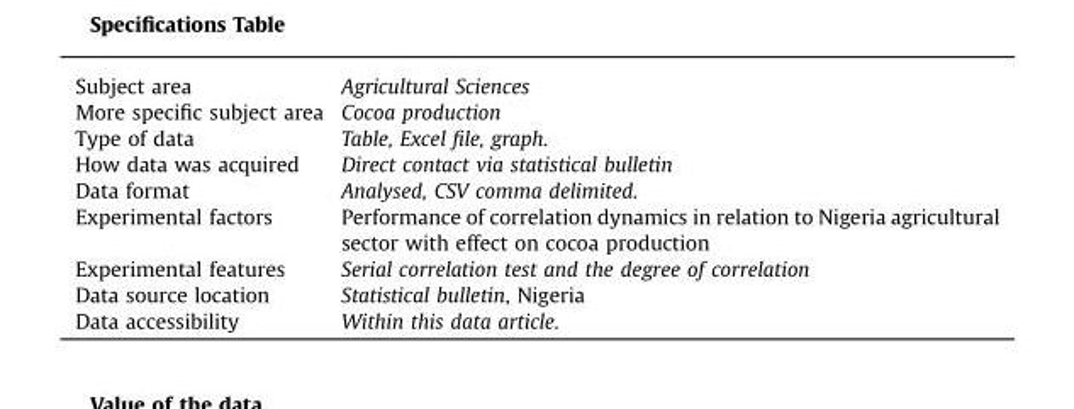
<table><tbody><tr><td>Subject area</td><td>Agricultural Sciences</td></tr><tr><td>More specific subject area</td><td>Cocoa production</td></tr><tr><td>Type of data</td><td>Table, Excel file, graph.</td></tr><tr><td>How data was acquired</td><td>Direct contact via statistical bulletin</td></tr><tr><td>Data format</td><td>Analysed, CSV comma delimited.</td></tr><tr><td>Experimental factors</td><td>Performance of correlation dynamics in relation to Nigeria agricultural sector with effect on cocoa production</td></tr><tr><td>Experimental features</td><td>Serial correlation test and the degree of correlation</td></tr><tr><td>Data source location</td><td>Statistical bulletin, Nigeria</td></tr><tr><td>Data accessibility</td><td>Within this data article.</td></tr></tbody></table>